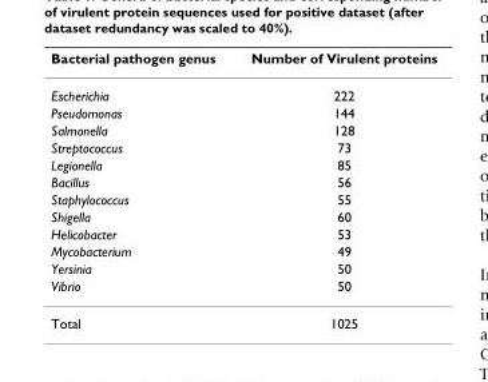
<table><thead><tr><td>Bacterial pathogen genus</td><td>Number of Virulent proteins</td></tr></thead><tbody><tr><td>Escherichia</td><td>222</td></tr><tr><td>Pseudomonas</td><td>144</td></tr><tr><td>Salmonella</td><td>128</td></tr><tr><td>Streptococcus</td><td>73</td></tr><tr><td>Legionella</td><td>85</td></tr><tr><td>Bacillus</td><td>56</td></tr><tr><td>Staphylococcus</td><td>55</td></tr><tr><td>Shigella</td><td>60</td></tr><tr><td>Helicobacter</td><td>53</td></tr><tr><td>Mycobacterium</td><td>49</td></tr><tr><td>Yersinia</td><td>50</td></tr><tr><td>Vibrio</td><td>50</td></tr><tr><td>Total</td><td>1025</td></tr></tbody></table>